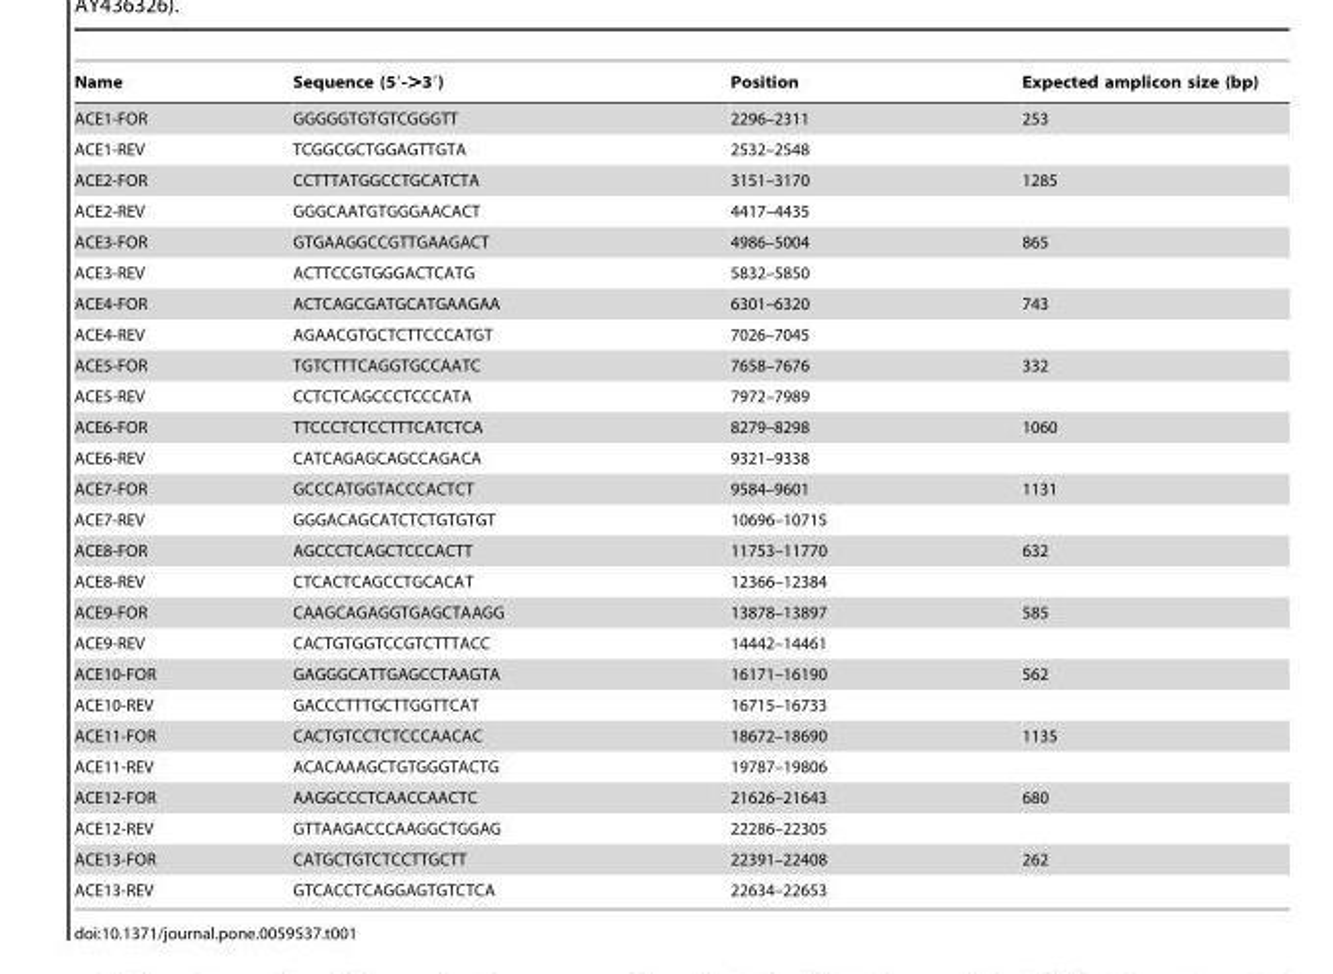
<table><thead><tr><td>Name</td><td>Sequence (5′-&gt;3′)</td><td>Position</td><td>Expected amplicon size (bp)</td></tr></thead><tbody><tr><td>ACE1-FOR</td><td>GGGGGTGTGTCGGGTT</td><td>2296–2311</td><td>253</td></tr><tr><td>ACE1-REV</td><td>TCGGCGCTGGAGTTGTA</td><td>2532–2548</td><td></td></tr><tr><td>ACE2-FOR</td><td>CCTTTATGGCCTGCATCTA</td><td>3151–3170</td><td>1285</td></tr><tr><td>ACE2-REV</td><td>GGGCAATGTGGGAACACT</td><td>4417–4435</td><td></td></tr><tr><td>ACE3-FOR</td><td>GTGAAGGCCGTTGAAGACT</td><td>4986–5004</td><td>865</td></tr><tr><td>ACE3-REV</td><td>ACTTCCGTGGGACTCATG</td><td>5832–5850</td><td></td></tr><tr><td>ACE4-FOR</td><td>ACTCAGCGATGCATGAAGAA</td><td>6301–6320</td><td>743</td></tr><tr><td>ACE4-REV</td><td>AGAACGTGCTCTTCCCATGT</td><td>7026–7045</td><td></td></tr><tr><td>ACE5-FOR</td><td>TGTCTTTCAGGTGCCAATC</td><td>7658–7676</td><td>332</td></tr><tr><td>ACE5-REV</td><td>CCTCTCAGCCCTCCCATA</td><td>7972–7989</td><td></td></tr><tr><td>ACE6-FOR</td><td>TTCCCTCTCCTTTCATCTCA</td><td>8279–8298</td><td>1060</td></tr><tr><td>ACE6-REV</td><td>CATCAGAGCAGCCAGACA</td><td>9321–9338</td><td></td></tr><tr><td>ACE7-FOR</td><td>GCCCATGGTACCCACTCT</td><td>9584–9601</td><td>1131</td></tr><tr><td>ACE7-REV</td><td>GGGACAGCATCTCTGTGTGT</td><td>10696–10715</td><td></td></tr><tr><td>ACE8-FOR</td><td>AGCCCTCAGCTCCCACTT</td><td>11753–11770</td><td>632</td></tr><tr><td>ACE8-REV</td><td>CTCACTCAGCCTGCACAT</td><td>12366–12384</td><td></td></tr><tr><td>ACE9-FOR</td><td>CAAGCAGAGGTGAGCTAAGG</td><td>13878–13897</td><td>585</td></tr><tr><td>ACE9-REV</td><td>CACTGTGGTCCGTCTTTACC</td><td>14442–14461</td><td></td></tr><tr><td>ACE10-FOR</td><td>GAGGGCATTGAGCCTAAGTA</td><td>16171–16190</td><td>562</td></tr><tr><td>ACE10-REV</td><td>GACCCTTTGCTTGGTTCAT</td><td>16715–16733</td><td></td></tr><tr><td>ACE11-FOR</td><td>CACTGTCCTCTCCCAACAC</td><td>18672–18690</td><td>1135</td></tr><tr><td>ACE11-REV</td><td>ACACAAAGCTGTGGGTACTG</td><td>19787–19806</td><td></td></tr><tr><td>ACE12-FOR</td><td>AAGGCCCTCAACCAACTC</td><td>21626–21643</td><td>680</td></tr><tr><td>ACE12-REV</td><td>GTTAAGACCCAAGGCTGGAG</td><td>22286–22305</td><td></td></tr><tr><td>ACE13-FOR</td><td>CATGCTGTCTCCTTGCTT</td><td>22391–22408</td><td>262</td></tr><tr><td>ACE13-REV</td><td>GTCACCTCAGGAGTGTCTCA</td><td>22634–22653</td><td></td></tr></tbody></table>